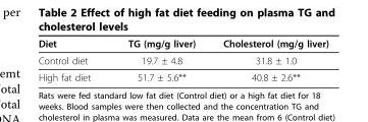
<table><thead><tr><td>Diet</td><td>TG (mg/g liver)</td><td>Cholesterol (mg/g liver)</td></tr></thead><tbody><tr><td>Control diet</td><td>19.7 ± 4.8</td><td>31.8 ± 1.0</td></tr><tr><td>High fat diet</td><td>51.7 ± 5.6**</td><td>40.8 ± 2.6**</td></tr></tbody></table>